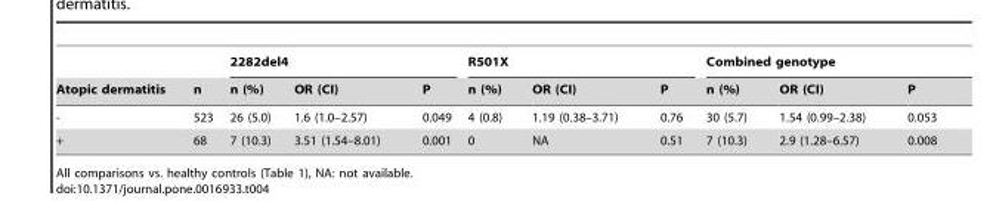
<table><thead><tr><td rowspan="2">Atopic dermatitis</td><td rowspan="2">n</td><td colspan="3">2282del4</td><td colspan="3">R501X</td><td colspan="3">Combined genotype</td></tr><tr><td>n (%)</td><td>OR (CI)</td><td>P</td><td>n (%)</td><td>OR (CI)</td><td>P</td><td>n (%)</td><td>OR (CI)</td><td>P</td></tr></thead><tbody><tr><td>-</td><td>523</td><td>26 (5.0)</td><td>1.6 (1.0–2.57)</td><td>0.049</td><td>4 (0.8)</td><td>1.19 (0.38–3.71)</td><td>0.76</td><td>30 (5.7)</td><td>1.54 (0.99–2.38)</td><td>0.053</td></tr><tr><td>+</td><td>68</td><td>7 (10.3)</td><td>3.51 (1.54–8.01)</td><td>0.001</td><td>0</td><td>NA</td><td>0.51</td><td>7 (10.3)</td><td>2.9 (1.28–6.57)</td><td>0.008</td></tr></tbody></table>